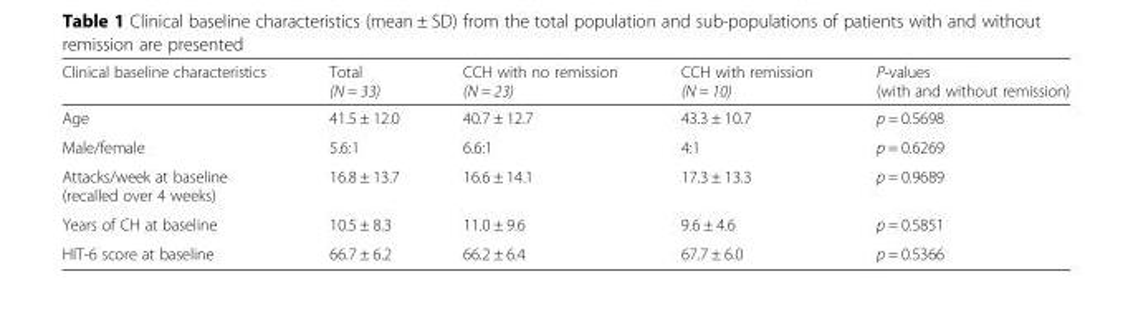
<table><thead><tr><td>Clinical baseline characteristics</td><td>Total (N = 33)</td><td>CCH with no remission (N = 23)</td><td>CCH with remission (N = 10)</td><td>P-values (with and without remission)</td></tr></thead><tbody><tr><td>Age</td><td>41.5 ± 12.0</td><td>40.7 ± 12.7</td><td>43.3 ± 10.7</td><td>p = 0.5698</td></tr><tr><td>Male/female</td><td>5.6:1</td><td>6.6:1</td><td>4:1</td><td>p = 0.6269</td></tr><tr><td>Attacks/week at baseline (recalled over 4 weeks)</td><td>16.8 ± 13.7</td><td>16.6 ± 14.1</td><td>17.3 ± 13.3</td><td>p = 0.9689</td></tr><tr><td>Years of CH at baseline</td><td>10.5 ± 8.3</td><td>11.0 ± 9.6</td><td>9.6 ± 4.6</td><td>p = 0.5851</td></tr><tr><td>HIT-6 score at baseline</td><td>66.7 ± 6.2</td><td>66.2 ± 6.4</td><td>67.7 ± 6.0</td><td>p = 0.5366</td></tr></tbody></table>